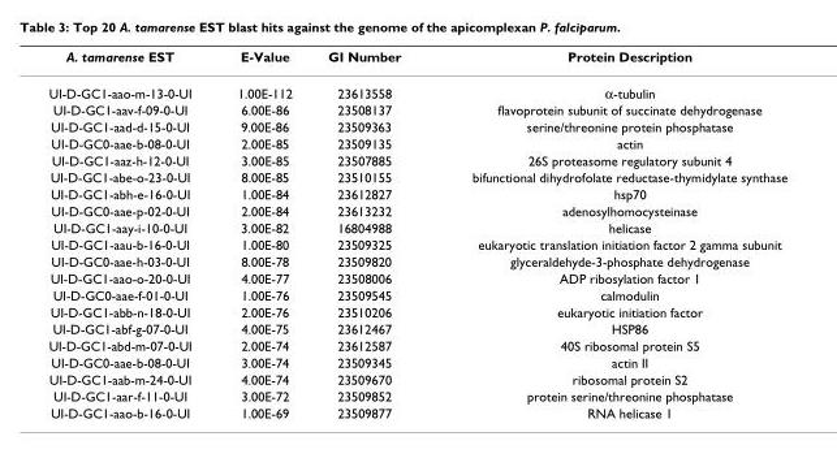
<table><thead><tr><td>A. tamarense EST</td><td>E-Value</td><td>GI Number</td><td>Protein Description</td></tr></thead><tbody><tr><td>UI-D-GC1-aao-m-13-0-UI</td><td>1.00E-112</td><td>23613558</td><td>α-tubulin</td></tr><tr><td>UI-D-GC1-aav-f-09-0-UI</td><td>6.00E-86</td><td>23508137</td><td>flavoprotein subunit of succinate dehydrogenase</td></tr><tr><td>UI-D-GC1-aad-d-15-0-UI</td><td>9.00E-86</td><td>23509363</td><td>serine/threonine protein phosphatase</td></tr><tr><td>UI-D-GC0-aae-b-08-0-UI</td><td>2.00E-85</td><td>23509135</td><td>actin</td></tr><tr><td>UI-D-GC1-aaz-h-12-0-UI</td><td>3.00E-85</td><td>23507885</td><td>26S proteasome regulatory subunit 4</td></tr><tr><td>UI-D-GC1-abe-o-23-0-UI</td><td>8.00E-85</td><td>23510155</td><td>bifunctional dihydrofolate reductase-thymidylate synthase</td></tr><tr><td>UI-D-GC1-abh-e-16-0-UI</td><td>1.00E-84</td><td>23612827</td><td>hsp70</td></tr><tr><td>UI-D-GC0-aae-p-02-0-UI</td><td>2.00E-84</td><td>23613232</td><td>adenosylhomocysteinase</td></tr><tr><td>UI-D-GC1-aay-i-10-0-UI</td><td>3.00E-82</td><td>16804988</td><td>helicase</td></tr><tr><td>UI-D-GC1-aau-b-16-0-UI</td><td>1.00E-80</td><td>23509325</td><td>eukaryotic translation initiation factor 2 gamma subunit</td></tr><tr><td>UI-D-GC0-aae-h-03-0-UI</td><td>8.00E-78</td><td>23509820</td><td>glyceraldehyde-3-phosphate dehydrogenase</td></tr><tr><td>UI-D-GC1-aao-o-20-0-UI</td><td>4.00E-77</td><td>23508006</td><td>ADP ribosylation factor 1</td></tr><tr><td>UI-D-GC0-aae-f-01-0-UI</td><td>1.00E-76</td><td>23509545</td><td>calmodulin</td></tr><tr><td>UI-D-GC1-abb-n-18-0-UI</td><td>2.00E-76</td><td>23510206</td><td>eukaryotic initiation factor</td></tr><tr><td>UI-D-GC1-abf-g-07-0-UI</td><td>4.00E-75</td><td>23612467</td><td>HSP86</td></tr><tr><td>UI-D-GC1-abd-m-07-0-UI</td><td>2.00E-74</td><td>23612587</td><td>40S ribosomal protein S5</td></tr><tr><td>UI-D-GC0-aae-b-08-0-UI</td><td>3.00E-74</td><td>23509345</td><td>actin II</td></tr><tr><td>UI-D-GC1-aab-m-24-0-UI</td><td>4.00E-74</td><td>23509670</td><td>ribosomal protein S2</td></tr><tr><td>UI-D-GC1-aar-f-11-0-UI</td><td>3.00E-72</td><td>23509852</td><td>protein serine/threonine phosphatase</td></tr><tr><td>UI-D-GC1-aao-b-16-0-UI</td><td>1.00E-69</td><td>23509877</td><td>RNA helicase 1</td></tr></tbody></table>